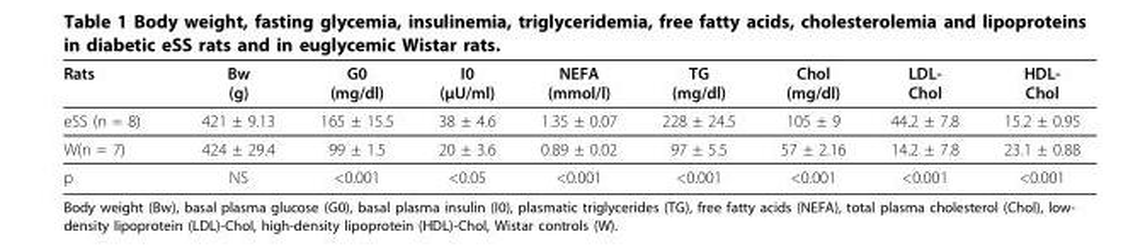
<table><thead><tr><td>Rats</td><td>Bw (g)</td><td>G0 (mg/dl)</td><td>I0 (μU/ml)</td><td>NEFA (mmol/l)</td><td>TG (mg/dl)</td><td>Chol (mg/dl)</td><td>LDL- Chol</td><td>HDL- Chol</td></tr></thead><tbody><tr><td>eSS (n = 8)</td><td>421 ± 9.13</td><td>165 ± 15.5</td><td>38 ± 4.6</td><td>1.35 ± 0.07</td><td>228 ± 24.5</td><td>105 ± 9</td><td>44.2 ± 7.8</td><td>15.2 ± 0.95</td></tr><tr><td>W(n = 7)</td><td>424 ± 29.4</td><td>99 ± 1.5</td><td>20 ± 3.6</td><td>0.89 ± 0.02</td><td>97 ± 5.5</td><td>57 ± 2.16</td><td>14.2 ± 7.8</td><td>23.1 ± 0.88</td></tr><tr><td>p</td><td>NS</td><td>&lt;0.001</td><td>&lt;0.05</td><td>&lt;0.001</td><td>&lt;0.001</td><td>&lt;0.001</td><td>&lt;0.001</td><td>&lt;0.001</td></tr></tbody></table>